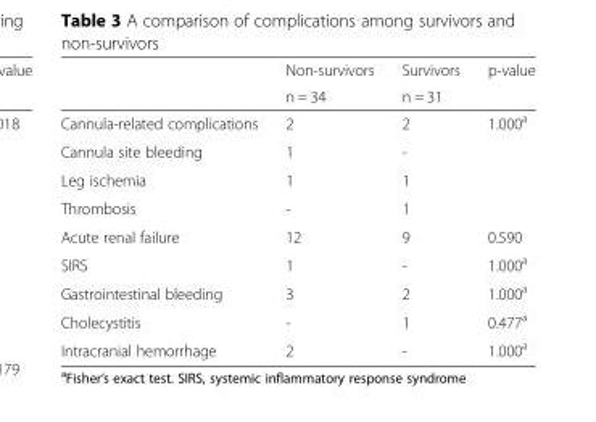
<table><thead><tr><td rowspan="2"></td><td rowspan="2">Non-survivors n = 34</td><td rowspan="2">Survivors n = 31</td><td rowspan="2">p-value</td></tr><tr></tr></thead><tbody><tr><td>Cannula-related complications</td><td>2</td><td>2</td><td>1.000<sup>a</sup></td></tr><tr><td>Cannula site bleeding</td><td>1</td><td>-</td><td rowspan="3"></td></tr><tr><td>Leg ischemia</td><td>1</td><td>1</td></tr><tr><td>Thrombosis</td><td>-</td><td>1</td></tr><tr><td>Acute renal failure</td><td>12</td><td>9</td><td>0.590</td></tr><tr><td>SIRS</td><td>1</td><td>-</td><td>1.000<sup>a</sup></td></tr><tr><td>Gastrointestinal bleeding</td><td>3</td><td>2</td><td>1.000<sup>a</sup></td></tr><tr><td>Cholecystitis</td><td>-</td><td>1</td><td>0.477<sup>a</sup></td></tr><tr><td>Intracranial hemorrhage</td><td>2</td><td>-</td><td>1.000<sup>a</sup></td></tr></tbody></table>